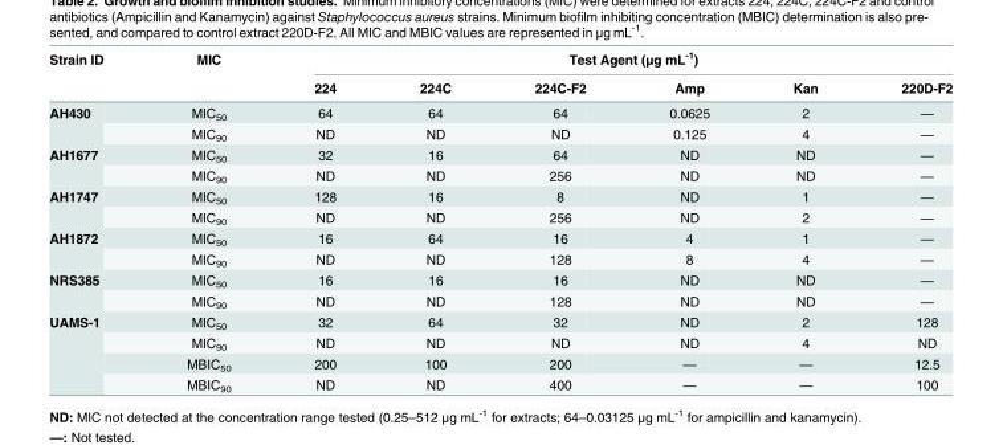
<table><thead><tr><td rowspan="2">Strain ID</td><td rowspan="2">MIC</td><td colspan="6">Test Agent (μg mL<sup>-1</sup>)</td></tr><tr><td>224</td><td>224C</td><td>224C-F2</td><td>Amp</td><td>Kan</td><td>220D-F2</td></tr></thead><tbody><tr><td rowspan="2">AH430</td><td>MIC<sub>50</sub></td><td>64</td><td>64</td><td>64</td><td>0.0625</td><td>2</td><td>—</td></tr><tr><td>MIC<sub>90</sub></td><td>ND</td><td>ND</td><td>ND</td><td>0.125</td><td>4</td><td>—</td></tr><tr><td rowspan="2">AH1677</td><td>MIC<sub>50</sub></td><td>32</td><td>16</td><td>64</td><td>ND</td><td>ND</td><td>—</td></tr><tr><td>MIC<sub>90</sub></td><td>ND</td><td>ND</td><td>256</td><td>ND</td><td>ND</td><td>—</td></tr><tr><td rowspan="2">AH1747</td><td>MIC<sub>50</sub></td><td>128</td><td>16</td><td>8</td><td>ND</td><td>1</td><td>—</td></tr><tr><td>MIC<sub>90</sub></td><td>ND</td><td>ND</td><td>256</td><td>ND</td><td>2</td><td>—</td></tr><tr><td rowspan="2">AH1872</td><td>MIC<sub>50</sub></td><td>16</td><td>64</td><td>16</td><td>4</td><td>1</td><td>—</td></tr><tr><td>MIC<sub>90</sub></td><td>ND</td><td>ND</td><td>128</td><td>8</td><td>4</td><td>—</td></tr><tr><td rowspan="2">NRS385</td><td>MIC<sub>50</sub></td><td>16</td><td>16</td><td>16</td><td>ND</td><td>ND</td><td>—</td></tr><tr><td>MIC<sub>90</sub></td><td>ND</td><td>ND</td><td>128</td><td>ND</td><td>ND</td><td>—</td></tr><tr><td rowspan="4">UAMS-1</td><td>MIC<sub>50</sub></td><td>32</td><td>64</td><td>32</td><td>ND</td><td>2</td><td>128</td></tr><tr><td>MIC<sub>90</sub></td><td>ND</td><td>ND</td><td>ND</td><td>ND</td><td>4</td><td>ND</td></tr><tr><td>MBIC<sub>50</sub></td><td>200</td><td>100</td><td>200</td><td>—</td><td>—</td><td>12.5</td></tr><tr><td>MBIC<sub>90</sub></td><td>ND</td><td>ND</td><td>400</td><td>—</td><td>—</td><td>100</td></tr></tbody></table>